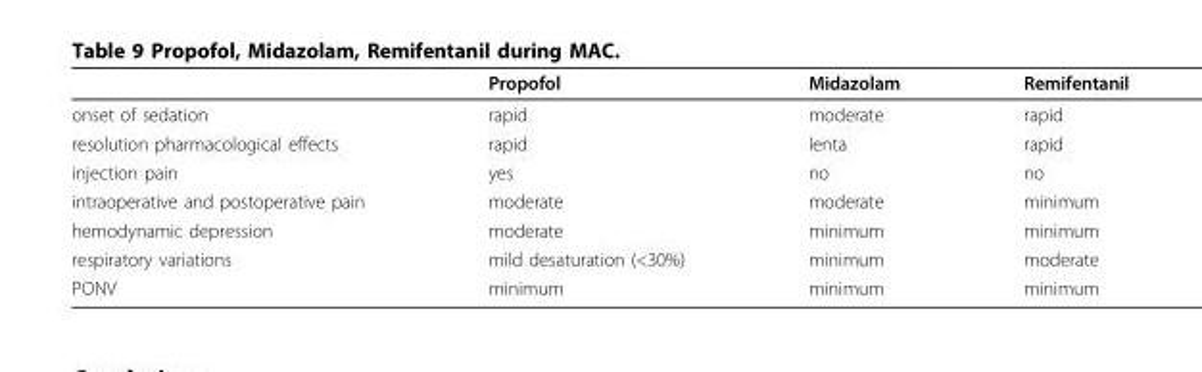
<table><thead><tr><td></td><td>Propofol</td><td>Midazolam</td><td>Remifentanil</td></tr></thead><tbody><tr><td>onset of sedation</td><td>rapid</td><td>moderate</td><td>rapid</td></tr><tr><td>resolution pharmacological effects</td><td>rapid</td><td>lenta</td><td>rapid</td></tr><tr><td>injection pain</td><td>yes</td><td>no</td><td>no</td></tr><tr><td>intraoperative and postoperative pain</td><td>moderate</td><td>moderate</td><td>minimum</td></tr><tr><td>hemodynamic depression</td><td>moderate</td><td>minimum</td><td>minimum</td></tr><tr><td>respiratory variations</td><td>mild desaturation (&lt;30%)</td><td>minimum</td><td>moderate</td></tr><tr><td>PONV</td><td>minimum</td><td>minimum</td><td>minimum</td></tr></tbody></table>